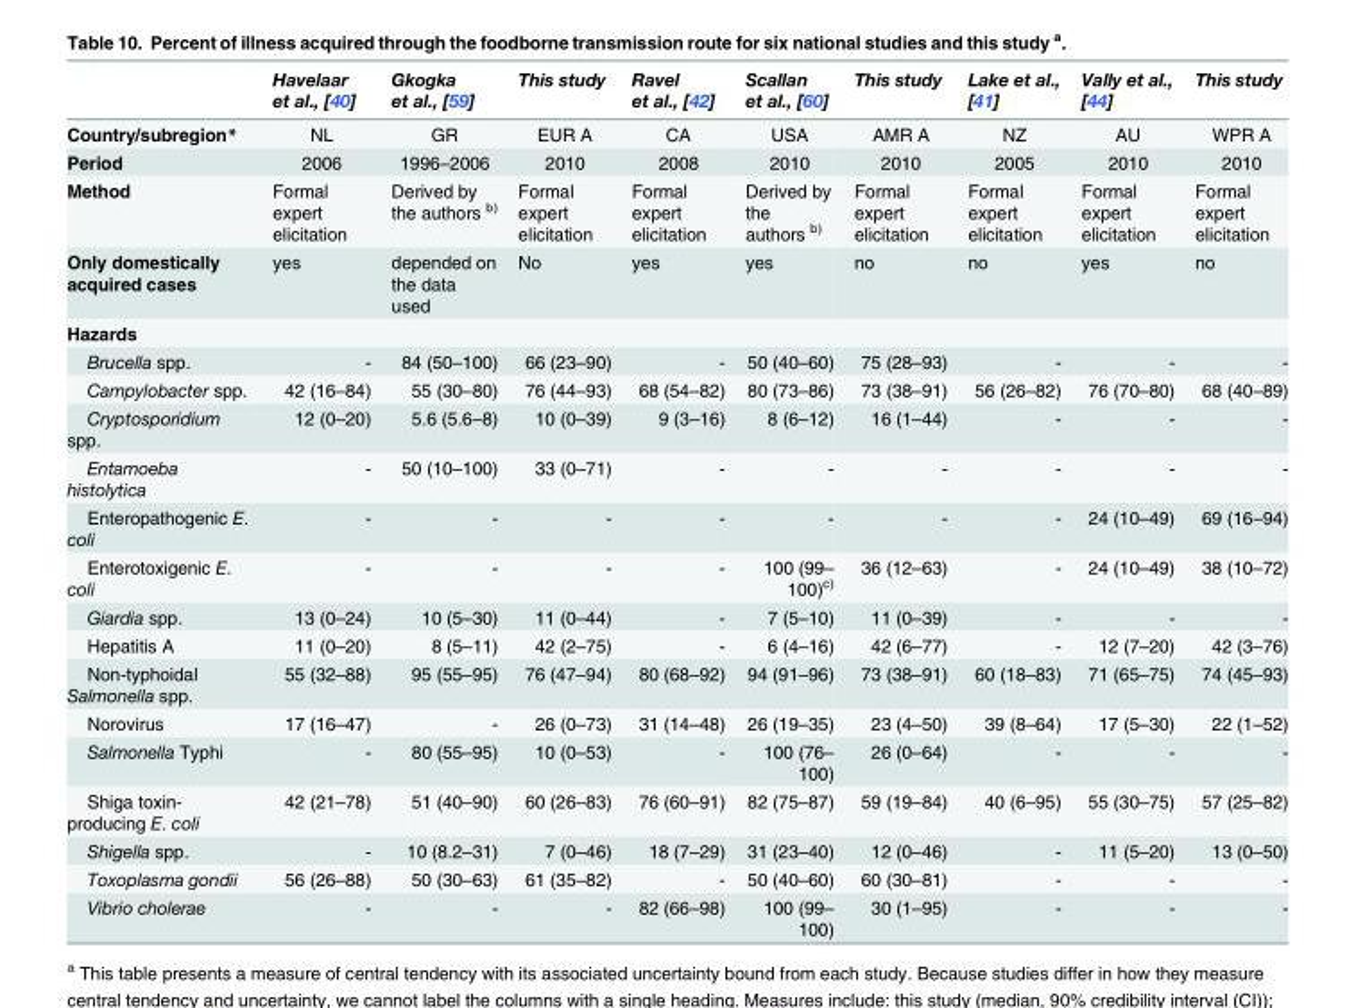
<table><thead><tr><td></td><td>Havelaar et al., [40]</td><td>Gkogka et al., [59]</td><td>This study</td><td>Ravel et al., [42]</td><td>Scallan et al., [60]</td><td>This study</td><td>Lake et al., [41]</td><td>Vally et al., [44]</td><td>This study</td></tr></thead><tbody><tr><td>Country/subregion*</td><td>NL</td><td>GR</td><td>EUR A</td><td>CA</td><td>USA</td><td>AMR A</td><td>NZ</td><td>AU</td><td>WPR A</td></tr><tr><td>Period</td><td>2006</td><td>1996–2006</td><td>2010</td><td>2008</td><td>2010</td><td>2010</td><td>2005</td><td>2010</td><td>2010</td></tr><tr><td>Method</td><td>Formal expert elicitation</td><td>Derived by the authors <sup>b)</sup></td><td>Formal expert elicitation</td><td>Formal expert elicitation</td><td>Derived by the authors <sup>b)</sup></td><td>Formal expert elicitation</td><td>Formal expert elicitation</td><td>Formal expert elicitation</td><td>Formal expert elicitation</td></tr><tr><td>Only domestically acquired cases</td><td>yes</td><td>depended on the data used</td><td>No</td><td>yes</td><td>yes</td><td>no</td><td>no</td><td>yes</td><td>no</td></tr><tr><td colspan="10">Hazards</td></tr><tr><td>Brucella spp.</td><td>-</td><td>84 (50–100)</td><td>66 (23–90)</td><td>-</td><td>50 (40–60)</td><td>75 (28–93)</td><td>-</td><td>-</td><td>-</td></tr><tr><td>Campylobacter spp.</td><td>42 (16–84)</td><td>55 (30–80)</td><td>76 (44–93)</td><td>68 (54–82)</td><td>80 (73–86)</td><td>73 (38–91)</td><td>56 (26–82)</td><td>76 (70–80)</td><td>68 (40–89)</td></tr><tr><td>Cryptosporidium spp.</td><td>12 (0–20)</td><td>5.6 (5.6–8)</td><td>10 (0–39)</td><td>9 (3–16)</td><td>8 (6–12)</td><td>16 (1–44)</td><td>-</td><td>-</td><td>-</td></tr><tr><td>Entamoeba histolytica</td><td>-</td><td>50 (10–100)</td><td>33 (0–71)</td><td>-</td><td>-</td><td>-</td><td>-</td><td>-</td><td>-</td></tr><tr><td>Enteropathogenic E. coli</td><td>-</td><td>-</td><td>-</td><td>-</td><td>-</td><td>-</td><td>-</td><td>24 (10–49)</td><td>69 (16–94)</td></tr><tr><td>Enterotoxigenic E. coli</td><td>-</td><td>-</td><td>-</td><td>-</td><td>100 (99– 100)<sup>c)</sup></td><td>36 (12–63)</td><td>-</td><td>24 (10–49)</td><td>38 (10–72)</td></tr><tr><td>Giardia spp.</td><td>13 (0–24)</td><td>10 (5–30)</td><td>11 (0–44)</td><td>-</td><td>7 (5–10)</td><td>11 (0–39)</td><td>-</td><td>-</td><td>-</td></tr><tr><td>Hepatitis A</td><td>11 (0–20)</td><td>8 (5–11)</td><td>42 (2–75)</td><td>-</td><td>6 (4–16)</td><td>42 (6–77)</td><td>-</td><td>12 (7–20)</td><td>42 (3–76)</td></tr><tr><td>Non-typhoidal Salmonella spp.</td><td>55 (32–88)</td><td>95 (55–95)</td><td>76 (47–94)</td><td>80 (68–92)</td><td>94 (91–96)</td><td>73 (38–91)</td><td>60 (18–83)</td><td>71 (65–75)</td><td>74 (45–93)</td></tr><tr><td>Norovirus</td><td>17 (16–47)</td><td>-</td><td>26 (0–73)</td><td>31 (14–48)</td><td>26 (19–35)</td><td>23 (4–50)</td><td>39 (8–64)</td><td>17 (5–30)</td><td>22 (1–52)</td></tr><tr><td>Salmonella Typhi</td><td>-</td><td>80 (55–95)</td><td>10 (0–53)</td><td>-</td><td>100 (76– 100)</td><td>26 (0–64)</td><td>-</td><td>-</td><td>-</td></tr><tr><td>Shiga toxin- producing E. coli</td><td>42 (21–78)</td><td>51 (40–90)</td><td>60 (26–83)</td><td>76 (60–91)</td><td>82 (75–87)</td><td>59 (19–84)</td><td>40 (6–95)</td><td>55 (30–75)</td><td>57 (25–82)</td></tr><tr><td>Shigella spp.</td><td>-</td><td>10 (8.2–31)</td><td>7 (0–46)</td><td>18 (7–29)</td><td>31 (23–40)</td><td>12 (0–46)</td><td>-</td><td>11 (5–20)</td><td>13 (0–50)</td></tr><tr><td>Toxoplasma gondii</td><td>56 (26–88)</td><td>50 (30–63)</td><td>61 (35–82)</td><td>-</td><td>50 (40–60)</td><td>60 (30–81)</td><td>-</td><td>-</td><td>-</td></tr><tr><td>Vibrio cholerae</td><td>-</td><td>-</td><td>-</td><td>82 (66–98)</td><td>100 (99– 100)</td><td>30 (1–95)</td><td>-</td><td>-</td><td>-</td></tr></tbody></table>